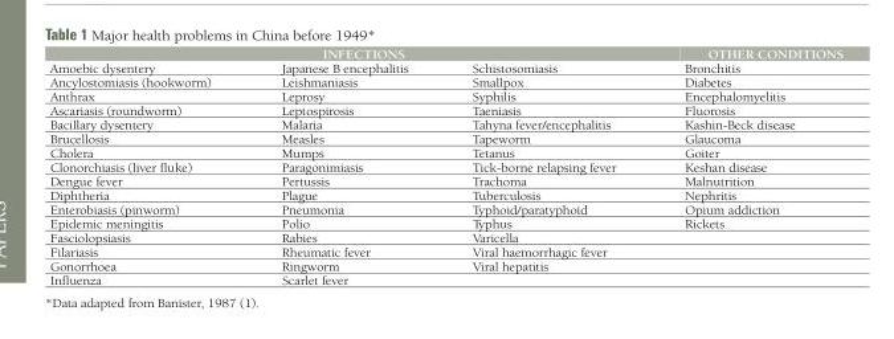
<table><thead><tr><td colspan="3">INFECTIONS</td><td rowspan="2">OTHER CONDITIONS Bronchitis</td></tr><tr><td>Amoebic dysentery</td><td>Japanese B encephalitis</td><td>Schistosomiasis</td></tr></thead><tbody><tr><td>Ancylostomiasis (hookworm)</td><td>Leishmaniasis</td><td>Smallpox</td><td>Diabetes</td></tr><tr><td>Anthrax</td><td>Leprosy</td><td>Syphilis</td><td>Encephalomyelitis</td></tr><tr><td>Ascariasis (roundworm)</td><td>Leptospirosis</td><td>Taeniasis</td><td>Fluorosis</td></tr><tr><td>Bacillary dysentery</td><td>Malaria</td><td>Tahyna fever/encephalitis</td><td>Kashin-Beck disease</td></tr><tr><td>Brucellosis</td><td>Measles</td><td>Tapeworm</td><td>Glaucoma</td></tr><tr><td>Cholera</td><td>Mumps</td><td>Tetanus</td><td>Goiter</td></tr><tr><td>Clonorchiasis (liver fluke)</td><td>Paragonimiasis</td><td>Tick-borne relapsing fever</td><td>Keshan disease</td></tr><tr><td>Dengue fever</td><td>Pertussis</td><td>Trachoma</td><td>Malnutrition</td></tr><tr><td>Diphtheria</td><td>Plague</td><td>Tuberculosis</td><td>Nephritis</td></tr><tr><td>Enterobiasis (pinworm)</td><td>Pneumonia</td><td>Typhoid/paratyphoid</td><td>Opium addiction</td></tr><tr><td>Epidemic meningitis</td><td>Polio</td><td>Typhus</td><td>Rickets</td></tr><tr><td>Fasciolopsiasis</td><td>Rabies</td><td>Varicella</td><td></td></tr><tr><td>Filariasis</td><td>Rheumatic fever</td><td>Viral haemorrhagic fever</td><td></td></tr><tr><td>Gonorrhoea</td><td>Ringworm</td><td>Viral hepatitis</td><td></td></tr><tr><td>Influenza</td><td>Scarlet fever</td><td></td><td></td></tr></tbody></table>